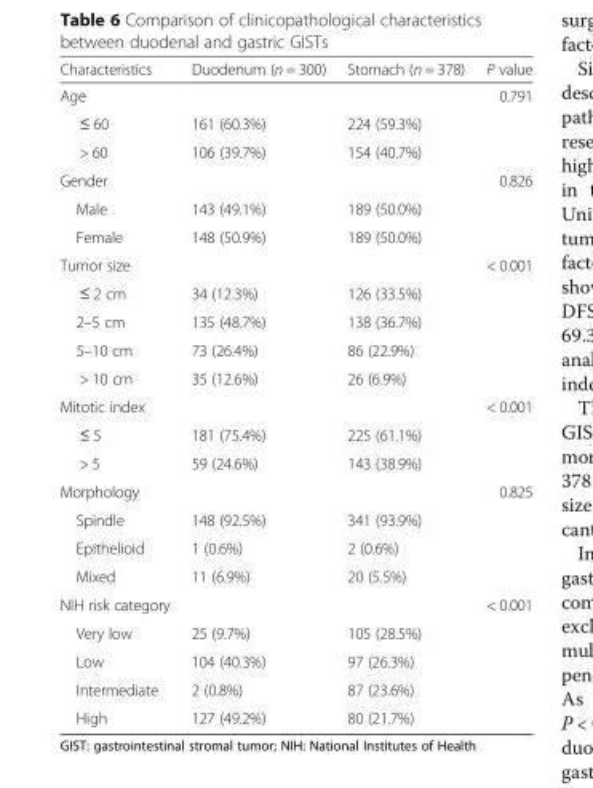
<table><thead><tr><td>Characteristics</td><td>Duodenum (n = 300)</td><td>Stomach (n = 378)</td><td>P value</td></tr></thead><tbody><tr><td>Age</td><td></td><td></td><td>0.791</td></tr><tr><td>≤ 60</td><td>161 (60.3%)</td><td>224 (59.3%)</td><td></td></tr><tr><td>&gt; 60</td><td>106 (39.7%)</td><td>154 (40.7%)</td><td></td></tr><tr><td>Gender</td><td></td><td></td><td>0.826</td></tr><tr><td>Male</td><td>143 (49.1%)</td><td>189 (50.0%)</td><td></td></tr><tr><td>Female</td><td>148 (50.9%)</td><td>189 (50.0%)</td><td></td></tr><tr><td>Tumor size</td><td></td><td></td><td>&lt; 0.001</td></tr><tr><td>≤ 2 cm</td><td>34 (12.3%)</td><td>126 (33.5%)</td><td></td></tr><tr><td>2–5 cm</td><td>135 (48.7%)</td><td>138 (36.7%)</td><td></td></tr><tr><td>5–10 cm</td><td>73 (26.4%)</td><td>86 (22.9%)</td><td></td></tr><tr><td>&gt; 10 cm</td><td>35 (12.6%)</td><td>26 (6.9%)</td><td></td></tr><tr><td>Mitotic index</td><td></td><td></td><td>&lt; 0.001</td></tr><tr><td>≤ 5</td><td>181 (75.4%)</td><td>225 (61.1%)</td><td></td></tr><tr><td>&gt; 5</td><td>59 (24.6%)</td><td>143 (38.9%)</td><td></td></tr><tr><td>Morphology</td><td></td><td></td><td>0.825</td></tr><tr><td>Spindle</td><td>148 (92.5%)</td><td>341 (93.9%)</td><td></td></tr><tr><td>Epithelioid</td><td>1 (0.6%)</td><td>2 (0.6%)</td><td></td></tr><tr><td>Mixed</td><td>11 (6.9%)</td><td>20 (5.5%)</td><td></td></tr><tr><td>NIH risk category</td><td></td><td></td><td>&lt; 0.001</td></tr><tr><td>Very low</td><td>25 (9.7%)</td><td>105 (28.5%)</td><td></td></tr><tr><td>Low</td><td>104 (40.3%)</td><td>97 (26.3%)</td><td></td></tr><tr><td>Intermediate</td><td>2 (0.8%)</td><td>87 (23.6%)</td><td></td></tr><tr><td>High</td><td>127 (49.2%)</td><td>80 (21.7%)</td><td></td></tr></tbody></table>